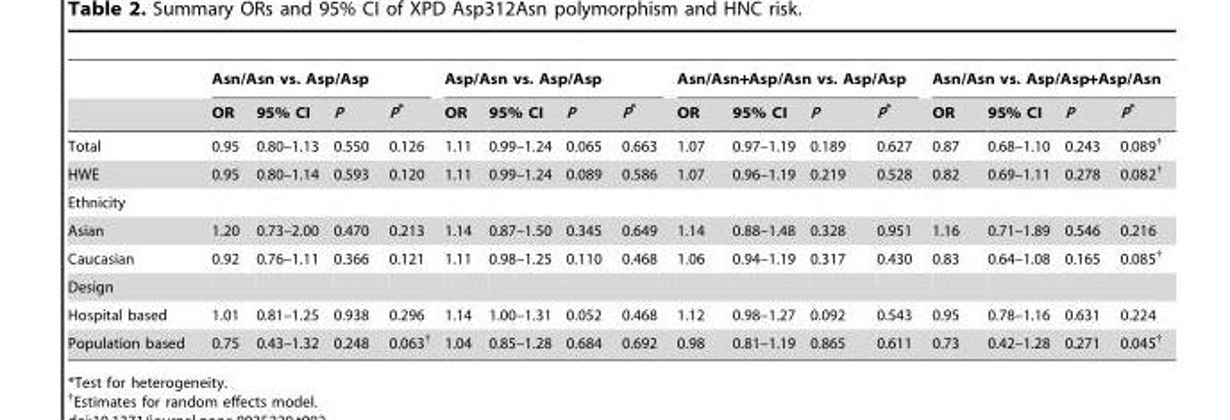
<table><thead><tr><td rowspan="2"></td><td colspan="4">Asn/Asn vs. Asp/Asp</td><td colspan="4">Asp/Asn vs. Asp/Asp</td><td colspan="4">Asn/Asn+Asp/Asn vs. Asp/Asp</td><td colspan="4">Asn/Asn vs. Asp/Asp+Asp/Asn</td></tr><tr><td>OR</td><td>95% CI</td><td>P</td><td>P*</td><td>OR</td><td>95% CI</td><td>P</td><td>P*</td><td>OR</td><td>95% CI</td><td>P</td><td>P*</td><td>OR</td><td>95% CI</td><td>P</td><td>P*</td></tr></thead><tbody><tr><td>Total</td><td>0.95</td><td>0.80–1.13</td><td>0.550</td><td>0.126</td><td>1.11</td><td>0.99–1.24</td><td>0.065</td><td>0.663</td><td>1.07</td><td>0.97–1.19</td><td>0.189</td><td>0.627</td><td>0.87</td><td>0.68–1.10</td><td>0.243</td><td>0.089†</td></tr><tr><td>HWE</td><td>0.95</td><td>0.80–1.14</td><td>0.593</td><td>0.120</td><td>1.11</td><td>0.99–1.24</td><td>0.089</td><td>0.586</td><td>1.07</td><td>0.96–1.19</td><td>0.219</td><td>0.528</td><td>0.82</td><td>0.69–1.11</td><td>0.278</td><td>0.082†</td></tr><tr><td colspan="17">Ethnicity</td></tr><tr><td>Asian</td><td>1.20</td><td>0.73–2.00</td><td>0.470</td><td>0.213</td><td>1.14</td><td>0.87–1.50</td><td>0.345</td><td>0.649</td><td>1.14</td><td>0.88–1.48</td><td>0.328</td><td>0.951</td><td>1.16</td><td>0.71–1.89</td><td>0.546</td><td>0.216</td></tr><tr><td>Caucasian</td><td>0.92</td><td>0.76–1.11</td><td>0.366</td><td>0.121</td><td>1.11</td><td>0.98–1.25</td><td>0.110</td><td>0.468</td><td>1.06</td><td>0.94–1.19</td><td>0.317</td><td>0.430</td><td>0.83</td><td>0.64–1.08</td><td>0.165</td><td>0.085†</td></tr><tr><td colspan="17">Design</td></tr><tr><td>Hospital based</td><td>1.01</td><td>0.81–1.25</td><td>0.938</td><td>0.296</td><td>1.14</td><td>1.00–1.31</td><td>0.052</td><td>0.468</td><td>1.12</td><td>0.98–1.27</td><td>0.092</td><td>0.543</td><td>0.95</td><td>0.78–1.16</td><td>0.631</td><td>0.224</td></tr><tr><td>Population based</td><td>0.75</td><td>0.43–1.32</td><td>0.248</td><td>0.063†</td><td>1.04</td><td>0.85–1.28</td><td>0.684</td><td>0.692</td><td>0.98</td><td>0.81–1.19</td><td>0.865</td><td>0.611</td><td>0.73</td><td>0.42–1.28</td><td>0.271</td><td>0.045†</td></tr></tbody></table>